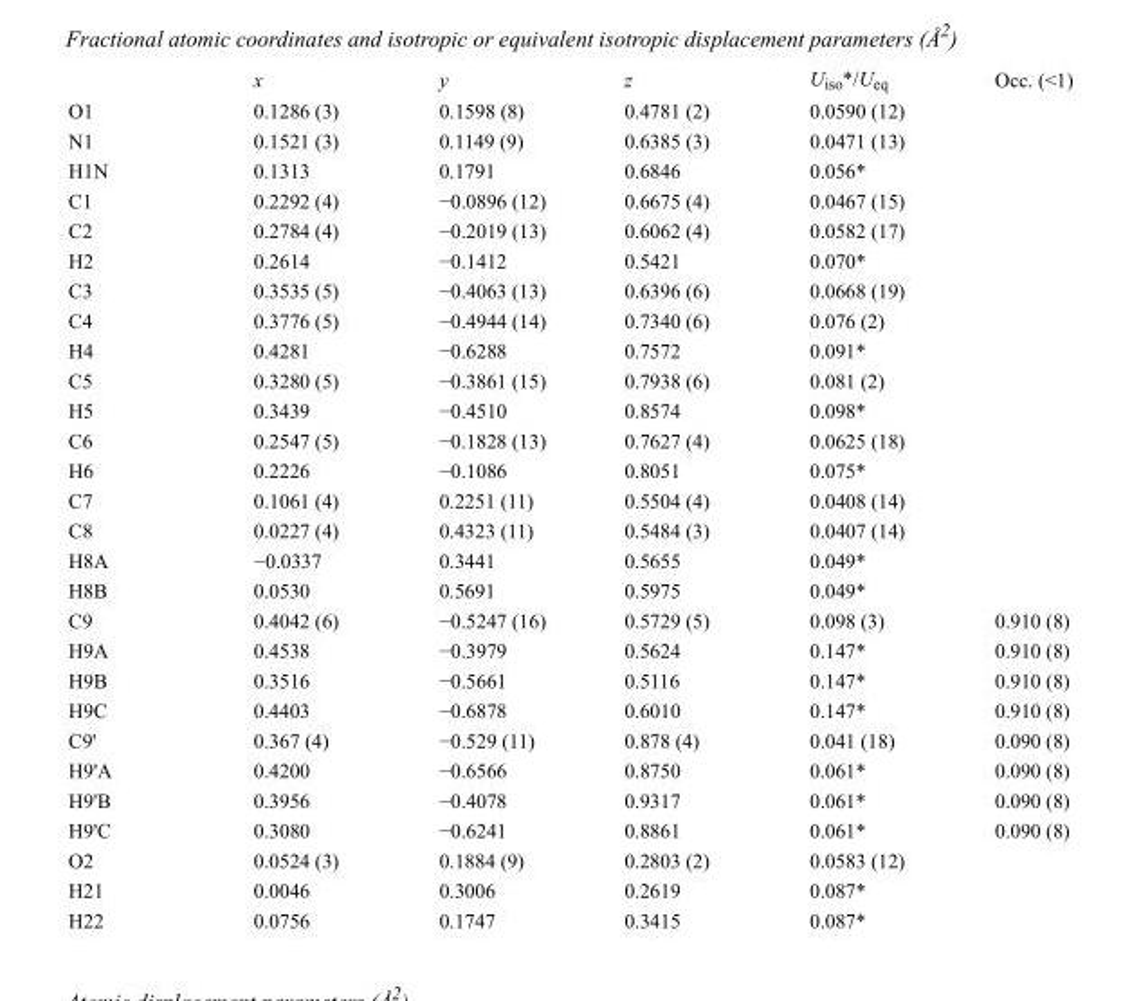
<table><thead><tr><td></td><td>x</td><td>y</td><td>z</td><td>U<sub>iso</sub>*/U<sub>eq</sub></td><td>Occ. (&lt;1)</td></tr></thead><tbody><tr><td>O1</td><td>0.1286 (3)</td><td>0.1598 (8)</td><td>0.4781 (2)</td><td>0.0590 (12)</td><td></td></tr><tr><td>N1</td><td>0.1521 (3)</td><td>0.1149 (9)</td><td>0.6385 (3)</td><td>0.0471 (13)</td><td></td></tr><tr><td>H1N</td><td>0.1313</td><td>0.1791</td><td>0.6846</td><td>0.056*</td><td></td></tr><tr><td>C1</td><td>0.2292 (4)</td><td>−0.0896 (12)</td><td>0.6675 (4)</td><td>0.0467 (15)</td><td></td></tr><tr><td>C2</td><td>0.2784 (4)</td><td>−0.2019 (13)</td><td>0.6062 (4)</td><td>0.0582 (17)</td><td></td></tr><tr><td>H2</td><td>0.2614</td><td>−0.1412</td><td>0.5421</td><td>0.070*</td><td></td></tr><tr><td>C3</td><td>0.3535 (5)</td><td>−0.4063 (13)</td><td>0.6396 (6)</td><td>0.0668 (19)</td><td></td></tr><tr><td>C4</td><td>0.3776 (5)</td><td>−0.4944 (14)</td><td>0.7340 (6)</td><td>0.076 (2)</td><td></td></tr><tr><td>H4</td><td>0.4281</td><td>−0.6288</td><td>0.7572</td><td>0.091*</td><td></td></tr><tr><td>C5</td><td>0.3280 (5)</td><td>−0.3861 (15)</td><td>0.7938 (6)</td><td>0.081 (2)</td><td></td></tr><tr><td>H5</td><td>0.3439</td><td>−0.4510</td><td>0.8574</td><td>0.098*</td><td></td></tr><tr><td>C6</td><td>0.2547 (5)</td><td>−0.1828 (13)</td><td>0.7627 (4)</td><td>0.0625 (18)</td><td></td></tr><tr><td>H6</td><td>0.2226</td><td>−0.1086</td><td>0.8051</td><td>0.075*</td><td></td></tr><tr><td>C7</td><td>0.1061 (4)</td><td>0.2251 (11)</td><td>0.5504 (4)</td><td>0.0408 (14)</td><td></td></tr><tr><td>C8</td><td>0.0227 (4)</td><td>0.4323 (11)</td><td>0.5484 (3)</td><td>0.0407 (14)</td><td></td></tr><tr><td>H8A</td><td>−0.0337</td><td>0.3441</td><td>0.5655</td><td>0.049*</td><td></td></tr><tr><td>H8B</td><td>0.0530</td><td>0.5691</td><td>0.5975</td><td>0.049*</td><td></td></tr><tr><td>C9</td><td>0.4042 (6)</td><td>−0.5247 (16)</td><td>0.5729 (5)</td><td>0.098 (3)</td><td>0.910 (8)</td></tr><tr><td>H9A</td><td>0.4538</td><td>−0.3979</td><td>0.5624</td><td>0.147*</td><td>0.910 (8)</td></tr><tr><td>H9B</td><td>0.3516</td><td>−0.5661</td><td>0.5116</td><td>0.147*</td><td>0.910 (8)</td></tr><tr><td>H9C</td><td>0.4403</td><td>−0.6878</td><td>0.6010</td><td>0.147*</td><td>0.910 (8)</td></tr><tr><td>C9&#x27;</td><td>0.367 (4)</td><td>−0.529 (11)</td><td>0.878 (4)</td><td>0.041 (18)</td><td>0.090 (8)</td></tr><tr><td>H9&#x27;A</td><td>0.4200</td><td>−0.6566</td><td>0.8750</td><td>0.061*</td><td>0.090 (8)</td></tr><tr><td>H9&#x27;B</td><td>0.3956</td><td>−0.4078</td><td>0.9317</td><td>0.061*</td><td>0.090 (8)</td></tr><tr><td>H9&#x27;C</td><td>0.3080</td><td>−0.6241</td><td>0.8861</td><td>0.061*</td><td>0.090 (8)</td></tr><tr><td>O2</td><td>0.0524 (3)</td><td>0.1884 (9)</td><td>0.2803 (2)</td><td>0.0583 (12)</td><td></td></tr><tr><td>H21</td><td>0.0046</td><td>0.3006</td><td>0.2619</td><td>0.087*</td><td></td></tr><tr><td>H22</td><td>0.0756</td><td>0.1747</td><td>0.3415</td><td>0.087*</td><td></td></tr></tbody></table>